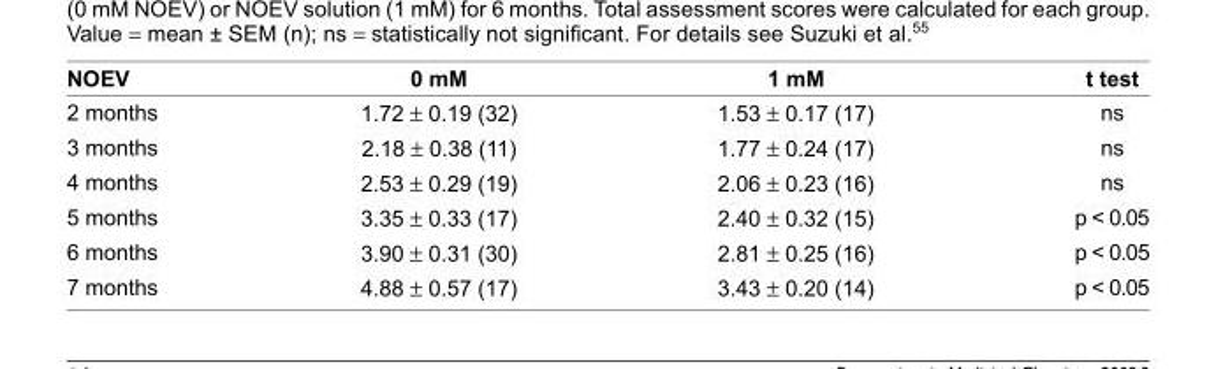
<table><thead><tr><td>NOEV</td><td>0 mM</td><td>1 mM</td><td>t test</td></tr></thead><tbody><tr><td>2 months</td><td>1.72 ± 0.19 (32)</td><td>1.53 ± 0.17 (17)</td><td>ns</td></tr><tr><td>3 months</td><td>2.18 ± 0.38 (11)</td><td>1.77 ± 0.24 (17)</td><td>ns</td></tr><tr><td>4 months</td><td>2.53 ± 0.29 (19)</td><td>2.06 ± 0.23 (16)</td><td>ns</td></tr><tr><td>5 months</td><td>3.35 ± 0.33 (17)</td><td>2.40 ± 0.32 (15)</td><td>p &lt; 0.05</td></tr><tr><td>6 months</td><td>3.90 ± 0.31 (30)</td><td>2.81 ± 0.25 (16)</td><td>p &lt; 0.05</td></tr><tr><td>7 months</td><td>4.88 ± 0.57 (17)</td><td>3.43 ± 0.20 (14)</td><td>p &lt; 0.05</td></tr></tbody></table>